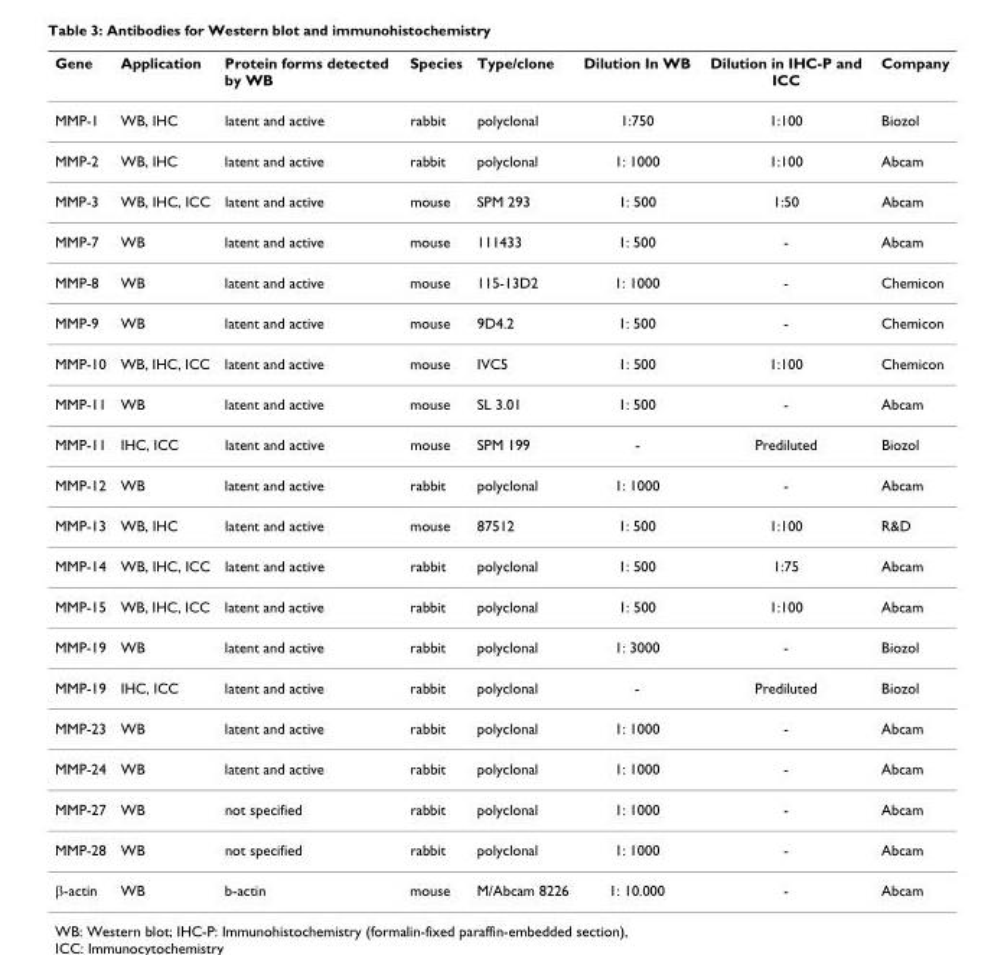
<table><thead><tr><td>Gene</td><td>Application</td><td>Protein forms detected by WB</td><td>Species</td><td>Type/clone</td><td>Dilution In WB</td><td>Dilution in IHC-P and ICC</td><td>Company</td></tr></thead><tbody><tr><td>MMP-1</td><td>WB, IHC</td><td>latent and active</td><td>rabbit</td><td>polyclonal</td><td>1:750</td><td>1:100</td><td>Biozol</td></tr><tr><td>MMP-2</td><td>WB, IHC</td><td>latent and active</td><td>rabbit</td><td>polyclonal</td><td>1: 1000</td><td>1:100</td><td>Abcam</td></tr><tr><td>MMP-3</td><td>WB, IHC, ICC</td><td>latent and active</td><td>mouse</td><td>SPM 293</td><td>1: 500</td><td>1:50</td><td>Abcam</td></tr><tr><td>MMP-7</td><td>WB</td><td>latent and active</td><td>mouse</td><td>111433</td><td>1: 500</td><td>-</td><td>Abcam</td></tr><tr><td>MMP-8</td><td>WB</td><td>latent and active</td><td>mouse</td><td>115-13D2</td><td>1: 1000</td><td>-</td><td>Chemicon</td></tr><tr><td>MMP-9</td><td>WB</td><td>latent and active</td><td>mouse</td><td>9D4.2</td><td>1: 500</td><td>-</td><td>Chemicon</td></tr><tr><td>MMP-10</td><td>WB, IHC, ICC</td><td>latent and active</td><td>mouse</td><td>IVC5</td><td>1: 500</td><td>1:100</td><td>Chemicon</td></tr><tr><td>MMP-11</td><td>WB</td><td>latent and active</td><td>mouse</td><td>SL 3.01</td><td>1: 500</td><td>-</td><td>Abcam</td></tr><tr><td>MMP-11</td><td>IHC, ICC</td><td>latent and active</td><td>mouse</td><td>SPM 199</td><td>-</td><td>Prediluted</td><td>Biozol</td></tr><tr><td>MMP-12</td><td>WB</td><td>latent and active</td><td>rabbit</td><td>polyclonal</td><td>1: 1000</td><td>-</td><td>Abcam</td></tr><tr><td>MMP-13</td><td>WB, IHC</td><td>latent and active</td><td>mouse</td><td>87512</td><td>1: 500</td><td>1:100</td><td>R&amp;D</td></tr><tr><td>MMP-14</td><td>WB, IHC, ICC</td><td>latent and active</td><td>rabbit</td><td>polyclonal</td><td>1: 500</td><td>1:75</td><td>Abcam</td></tr><tr><td>MMP-15</td><td>WB, IHC, ICC</td><td>latent and active</td><td>rabbit</td><td>polyclonal</td><td>1: 500</td><td>1:100</td><td>Abcam</td></tr><tr><td>MMP-19</td><td>WB</td><td>latent and active</td><td>rabbit</td><td>polyclonal</td><td>1: 3000</td><td>-</td><td>Biozol</td></tr><tr><td>MMP-19</td><td>IHC, ICC</td><td>latent and active</td><td>rabbit</td><td>polyclonal</td><td>-</td><td>Prediluted</td><td>Biozol</td></tr><tr><td>MMP-23</td><td>WB</td><td>latent and active</td><td>rabbit</td><td>polyclonal</td><td>1: 1000</td><td>-</td><td>Abcam</td></tr><tr><td>MMP-24</td><td>WB</td><td>latent and active</td><td>rabbit</td><td>polyclonal</td><td>1: 1000</td><td>-</td><td>Abcam</td></tr><tr><td>MMP-27</td><td>WB</td><td>not specified</td><td>rabbit</td><td>polyclonal</td><td>1: 1000</td><td>-</td><td>Abcam</td></tr><tr><td>MMP-28</td><td>WB</td><td>not specified</td><td>rabbit</td><td>polyclonal</td><td>1: 1000</td><td>-</td><td>Abcam</td></tr><tr><td>β-actin</td><td>WB</td><td>b-actin</td><td>mouse</td><td>M/Abcam 8226</td><td>1: 10.000</td><td>-</td><td>Abcam</td></tr></tbody></table>